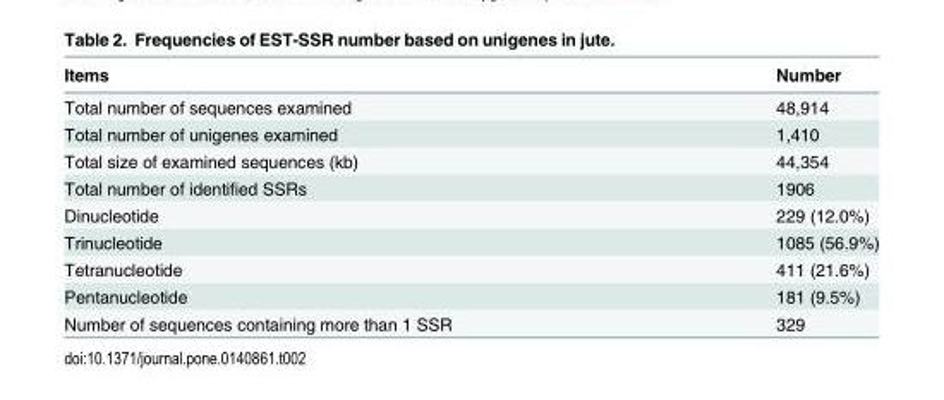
<table><thead><tr><td>Items</td><td>Number</td></tr></thead><tbody><tr><td>Total number of sequences examined</td><td>48,914</td></tr><tr><td>Total number of unigenes examined</td><td>1,410</td></tr><tr><td>Total size of examined sequences (kb)</td><td>44,354</td></tr><tr><td>Total number of identified SSRs</td><td>1906</td></tr><tr><td>Dinucleotide</td><td>229 (12.0%)</td></tr><tr><td>Trinucleotide</td><td>1085 (56.9%)</td></tr><tr><td>Tetranucleotide</td><td>411 (21.6%)</td></tr><tr><td>Pentanucleotide</td><td>181 (9.5%)</td></tr><tr><td>Number of sequences containing more than 1 SSR</td><td>329</td></tr></tbody></table>